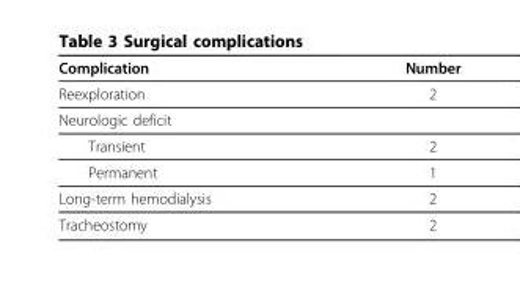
<table><thead><tr><td>Complication</td><td>Number</td></tr></thead><tbody><tr><td>Reexploration</td><td>2</td></tr><tr><td colspan="2">Neurologic deficit</td></tr><tr><td>Transient</td><td>2</td></tr><tr><td>Permanent</td><td>1</td></tr><tr><td>Long-term hemodialysis</td><td>2</td></tr><tr><td>Tracheostomy</td><td>2</td></tr></tbody></table>